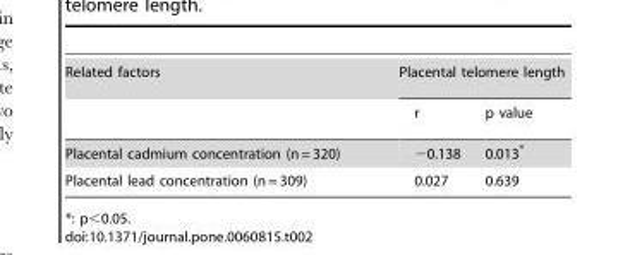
<table><tbody><tr><td rowspan="2">Related factors</td><td colspan="2">Placental telomere length</td></tr><tr><td>r</td><td>p value</td></tr><tr><td>Placental cadmium concentration (n = 320)</td><td>−0.138</td><td>0.013*</td></tr><tr><td>Placental lead concentration (n = 309)</td><td>0.027</td><td>0.639</td></tr></tbody></table>